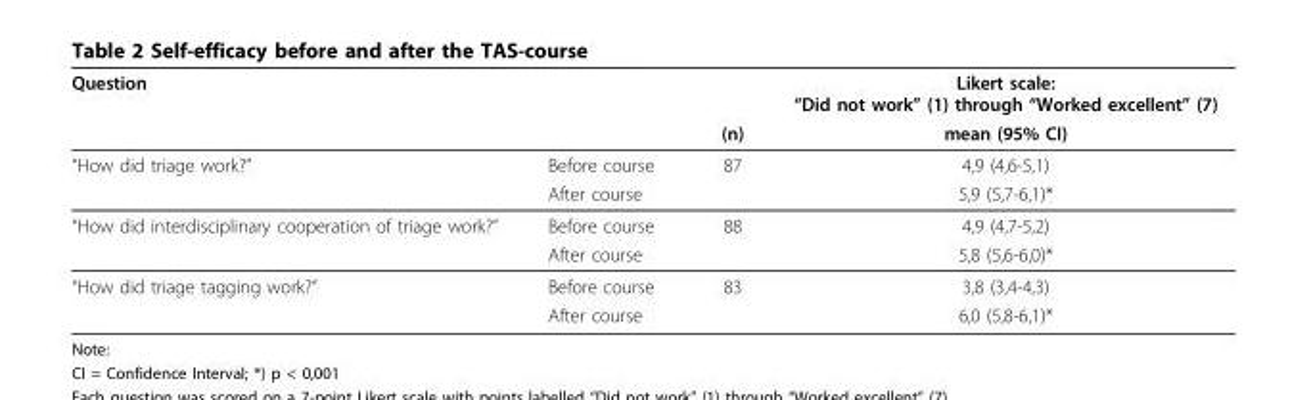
<table><thead><tr><td rowspan="2">Question</td><td rowspan="2"></td><td rowspan="2">(n)</td><td rowspan="2">Likert scale: “Did not work” (1) through “Worked excellent” (7) mean (95% CI)</td></tr><tr></tr></thead><tbody><tr><td rowspan="2">“How did triage work?”</td><td>Before course</td><td>87</td><td>4,9 (4,6-5,1)</td></tr><tr><td>After course</td><td></td><td>5,9 (5,7-6,1)*</td></tr><tr><td rowspan="2">“How did interdisciplinary cooperation of triage work?”</td><td>Before course</td><td>88</td><td>4,9 (4,7-5,2)</td></tr><tr><td>After course</td><td></td><td>5,8 (5,6-6,0)*</td></tr><tr><td rowspan="2">“How did triage tagging work?”</td><td>Before course</td><td>83</td><td>3,8 (3,4-4,3)</td></tr><tr><td>After course</td><td></td><td>6,0 (5,8-6,1)*</td></tr></tbody></table>